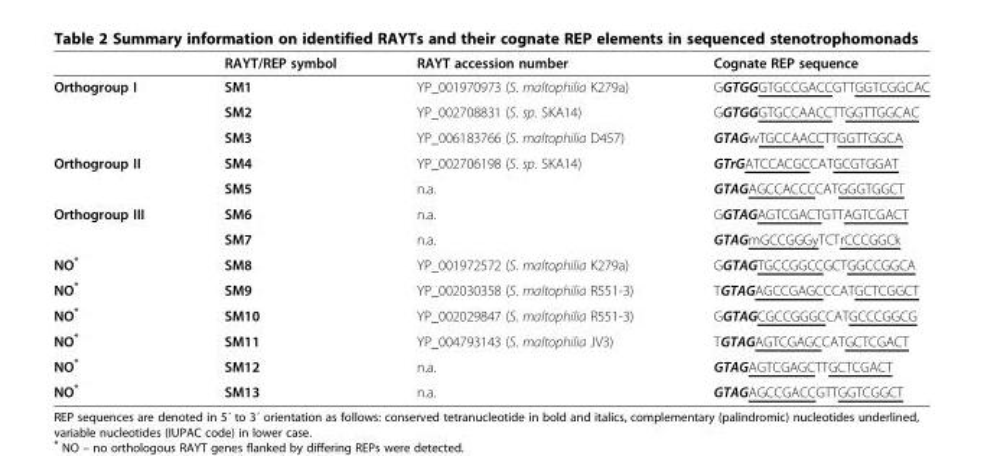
<table><thead><tr><td></td><td>RAYT/REP symbol</td><td>RAYT accession number</td><td>Cognate REP sequence</td></tr></thead><tbody><tr><td rowspan="3">Orthogroup I</td><td>SM1</td><td>YP_001970973 (S. maltophilia K279a)</td><td>GGTGGGTGCCGACCGTTGGTCGGCAC</td></tr><tr><td>SM2</td><td>YP_002708831 (S. sp. SKA14)</td><td>GGTGGGTGCCAACCTTGGTTGGCAC</td></tr><tr><td>SM3</td><td>YP_006183766 (S. maltophilia D457)</td><td>GTAGwTGCCAACCTTGGTTGGCA</td></tr><tr><td rowspan="2">Orthogroup II</td><td>SM4</td><td>YP_002706198 (S. sp. SKA14)</td><td>GTrGATCCACGCCATGCGTGGAT</td></tr><tr><td>SM5</td><td>n.a.</td><td>GTAGAGCCACCCCATGGGTGGCT</td></tr><tr><td rowspan="2">Orthogroup III</td><td>SM6</td><td>n.a.</td><td>GGTAGAGTCGACTGTTAGTCGACT</td></tr><tr><td>SM7</td><td>n.a.</td><td>GTAGmGCCGGGyTCTrCCCGGCk</td></tr><tr><td>NO*</td><td>SM8</td><td>YP_001972572 (S. maltophilia K279a)</td><td>GGTAGTGCCGGCCGCTGGCCGGCA</td></tr><tr><td>NO*</td><td>SM9</td><td>YP_002030358 (S. maltophilia R551-3)</td><td>TGTAGAGCCGAGCCCATGCTCGGCT</td></tr><tr><td>NO*</td><td>SM10</td><td>YP_002029847 (S. maltophilia R551-3)</td><td>GGTAGCGCCGGGCCATGCCCGGCG</td></tr><tr><td>NO*</td><td>SM11</td><td>YP_004793143 (S. maltophilia JV3)</td><td>TGTAGAGTCGAGCCATGCTCGACT</td></tr><tr><td>NO*</td><td>SM12</td><td>n.a.</td><td>GTAGAGTCGAGCTTGCTCGACT</td></tr><tr><td>NO*</td><td>SM13</td><td>n.a.</td><td>GTAGAGCCGACCGTTGGTCGGCT</td></tr></tbody></table>